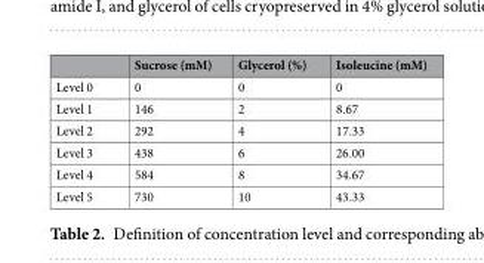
<table><thead><tr><td></td><td>Sucrose (mM)</td><td>Glycerol (%)</td><td>Isoleucine (mM)</td></tr></thead><tbody><tr><td>Level 0</td><td>0</td><td>0</td><td>0</td></tr><tr><td>Level 1</td><td>146</td><td>2</td><td>8.67</td></tr><tr><td>Level 2</td><td>292</td><td>4</td><td>17.33</td></tr><tr><td>Level 3</td><td>438</td><td>6</td><td>26.00</td></tr><tr><td>Level 4</td><td>584</td><td>8</td><td>34.67</td></tr><tr><td>Level 5</td><td>730</td><td>10</td><td>43.33</td></tr></tbody></table>